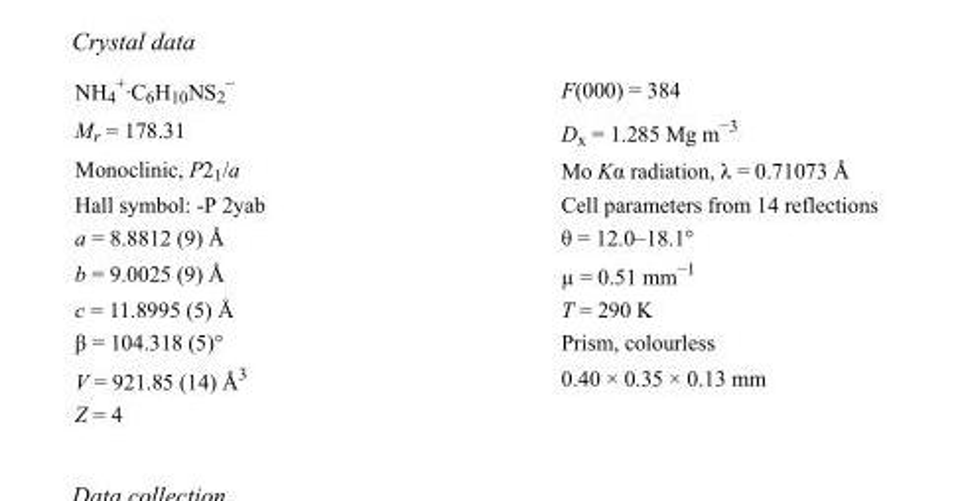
<table><tbody><tr><td>NH<sub>4</sub> <sup>+</sup>·C<sub>6</sub>H<sub>10</sub>NS<sub>2</sub> <sup>−</sup></td><td>F(000) = 384</td></tr><tr><td>M<sub>r</sub> = 178.31</td><td>D<sub>x</sub> = 1.285 Mg m<sup>−3</sup></td></tr><tr><td>Monoclinic, P2<sub>1</sub>/a</td><td>Mo Kα radiation, λ = 0.71073 Å</td></tr><tr><td>Hall symbol: -P 2yab</td><td>Cell parameters from 14 reflections</td></tr><tr><td>a = 8.8812 (9) Å</td><td>θ = 12.0–18.1°</td></tr><tr><td>b = 9.0025 (9) Å</td><td>µ = 0.51 mm<sup>−1</sup></td></tr><tr><td>c = 11.8995 (5) Å</td><td>T = 290 K</td></tr><tr><td>β = 104.318 (5)°</td><td>Prism, colourless</td></tr><tr><td>V = 921.85 (14) Å<sup>3</sup></td><td>0.40 × 0.35 × 0.13 mm</td></tr><tr><td>Z = 4</td><td></td></tr></tbody></table>